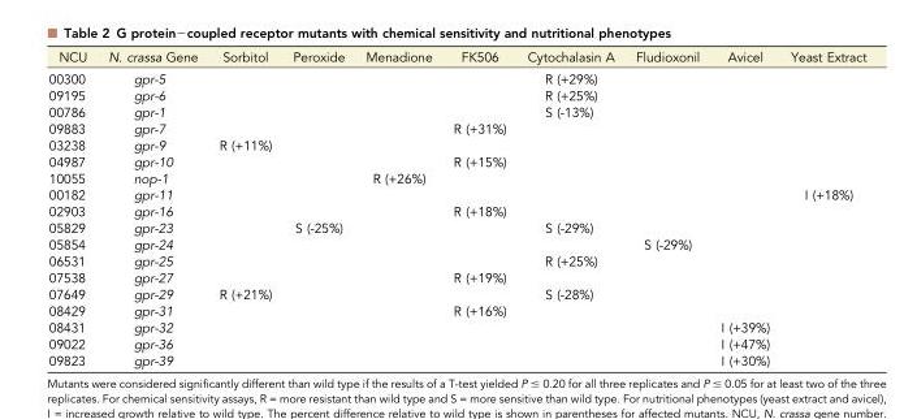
<table><thead><tr><td>NCU</td><td>N. crassa Gene</td><td>Sorbitol</td><td>Peroxide</td><td>Menadione</td><td>FK506</td><td>Cytochalasin A</td><td>Fludioxonil</td><td>Avicel</td><td>Yeast Extract</td></tr></thead><tbody><tr><td>00300</td><td>gpr-5</td><td></td><td></td><td></td><td></td><td>R (+29%)</td><td></td><td></td><td></td></tr><tr><td>09195</td><td>gpr-6</td><td></td><td></td><td></td><td></td><td>R (+25%)</td><td></td><td></td><td></td></tr><tr><td>00786</td><td>gpr-1</td><td></td><td></td><td></td><td></td><td>S (-13%)</td><td></td><td></td><td></td></tr><tr><td>09883</td><td>gpr-7</td><td></td><td></td><td></td><td>R (+31%)</td><td></td><td></td><td></td><td></td></tr><tr><td>03238</td><td>gpr-9</td><td>R (+11%)</td><td></td><td></td><td></td><td></td><td></td><td></td><td></td></tr><tr><td>04987</td><td>gpr-10</td><td></td><td></td><td></td><td>R (+15%)</td><td></td><td></td><td></td><td></td></tr><tr><td>10055</td><td>nop-1</td><td></td><td></td><td>R (+26%)</td><td></td><td></td><td></td><td></td><td></td></tr><tr><td>00182</td><td>gpr-11</td><td></td><td></td><td></td><td></td><td></td><td></td><td></td><td>I (+18%)</td></tr><tr><td>02903</td><td>gpr-16</td><td></td><td></td><td></td><td>R (+18%)</td><td></td><td></td><td></td><td></td></tr><tr><td>05829</td><td>gpr-23</td><td></td><td>S (-25%)</td><td></td><td></td><td>S (-29%)</td><td></td><td></td><td></td></tr><tr><td>05854</td><td>gpr-24</td><td></td><td></td><td></td><td></td><td></td><td>S (-29%)</td><td></td><td></td></tr><tr><td>06531</td><td>gpr-25</td><td></td><td></td><td></td><td></td><td>R (+25%)</td><td></td><td></td><td></td></tr><tr><td>07538</td><td>gpr-27</td><td></td><td></td><td></td><td>R (+19%)</td><td></td><td></td><td></td><td></td></tr><tr><td>07649</td><td>gpr-29</td><td>R (+21%)</td><td></td><td></td><td></td><td>S (-28%)</td><td></td><td></td><td></td></tr><tr><td>08429</td><td>gpr-31</td><td></td><td></td><td></td><td>R (+16%)</td><td></td><td></td><td></td><td></td></tr><tr><td>08431</td><td>gpr-32</td><td></td><td></td><td></td><td></td><td></td><td></td><td>I (+39%)</td><td></td></tr><tr><td>09022</td><td>gpr-36</td><td></td><td></td><td></td><td></td><td></td><td></td><td>I (+47%)</td><td></td></tr><tr><td>09823</td><td>gpr-39</td><td></td><td></td><td></td><td></td><td></td><td></td><td>I (+30%)</td><td></td></tr></tbody></table>